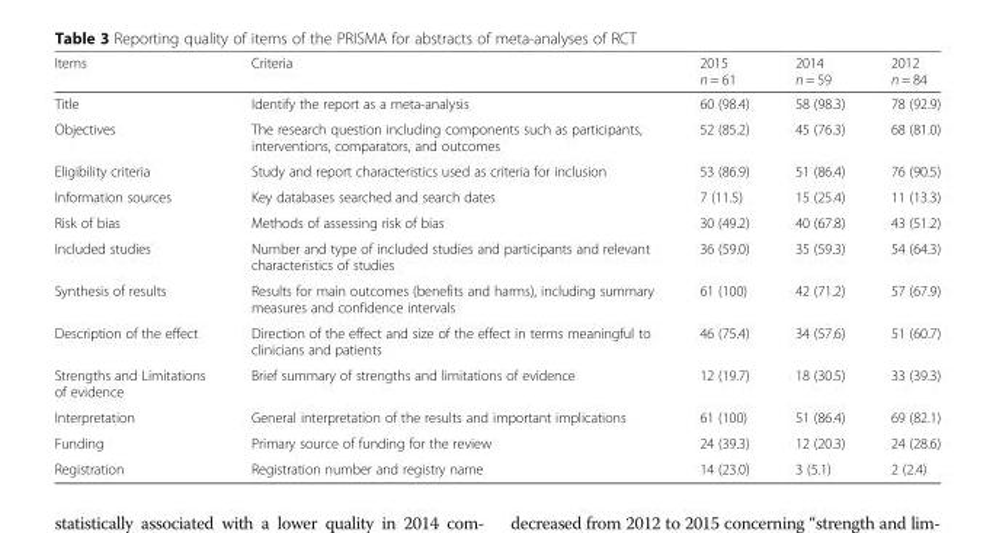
<table><thead><tr><td>Items</td><td>Criteria</td><td>2015 n = 61</td><td>2014 n = 59</td><td>2012 n = 84</td></tr></thead><tbody><tr><td>Title</td><td>Identify the report as a meta-analysis</td><td>60 (98.4)</td><td>58 (98.3)</td><td>78 (92.9)</td></tr><tr><td>Objectives</td><td>The research question including components such as participants, interventions, comparators, and outcomes</td><td>52 (85.2)</td><td>45 (76.3)</td><td>68 (81.0)</td></tr><tr><td>Eligibility criteria</td><td>Study and report characteristics used as criteria for inclusion</td><td>53 (86.9)</td><td>51 (86.4)</td><td>76 (90.5)</td></tr><tr><td>Information sources</td><td>Key databases searched and search dates</td><td>7 (11.5)</td><td>15 (25.4)</td><td>11 (13.3)</td></tr><tr><td>Risk of bias</td><td>Methods of assessing risk of bias</td><td>30 (49.2)</td><td>40 (67.8)</td><td>43 (51.2)</td></tr><tr><td>Included studies</td><td>Number and type of included studies and participants and relevant characteristics of studies</td><td>36 (59.0)</td><td>35 (59.3)</td><td>54 (64.3)</td></tr><tr><td>Synthesis of results</td><td>Results for main outcomes (benefits and harms), including summary measures and confidence intervals</td><td>61 (100)</td><td>42 (71.2)</td><td>57 (67.9)</td></tr><tr><td>Description of the effect</td><td>Direction of the effect and size of the effect in terms meaningful to clinicians and patients</td><td>46 (75.4)</td><td>34 (57.6)</td><td>51 (60.7)</td></tr><tr><td>Strengths and Limitations of evidence</td><td>Brief summary of strengths and limitations of evidence</td><td>12 (19.7)</td><td>18 (30.5)</td><td>33 (39.3)</td></tr><tr><td>Interpretation</td><td>General interpretation of the results and important implications</td><td>61 (100)</td><td>51 (86.4)</td><td>69 (82.1)</td></tr><tr><td>Funding</td><td>Primary source of funding for the review</td><td>24 (39.3)</td><td>12 (20.3)</td><td>24 (28.6)</td></tr><tr><td>Registration</td><td>Registration number and registry name</td><td>14 (23.0)</td><td>3 (5.1)</td><td>2 (2.4)</td></tr></tbody></table>